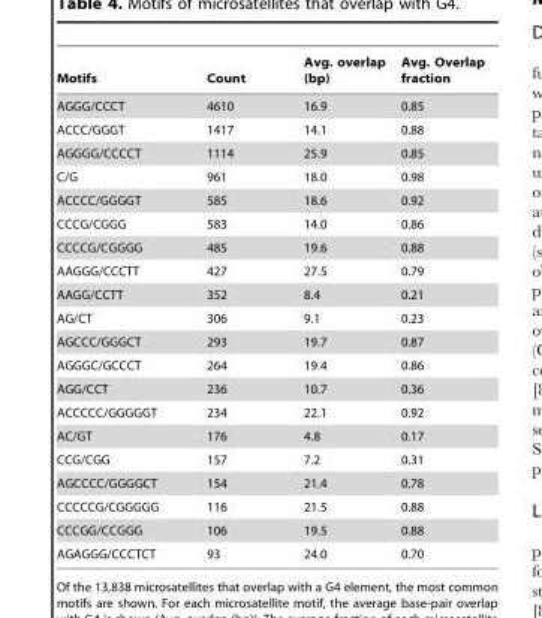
<table><thead><tr><td>Motifs</td><td>Count</td><td>Avg. overlap (bp)</td><td>Avg. Overlap fraction</td></tr></thead><tbody><tr><td>AGGG/CCCT</td><td>4610</td><td>16.9</td><td>0.85</td></tr><tr><td>ACCC/GGGT</td><td>1417</td><td>14.1</td><td>0.88</td></tr><tr><td>AGGGG/CCCCT</td><td>1114</td><td>25.9</td><td>0.85</td></tr><tr><td>C/G</td><td>961</td><td>18.0</td><td>0.98</td></tr><tr><td>ACCCC/GGGGT</td><td>585</td><td>18.6</td><td>0.92</td></tr><tr><td>CCCG/CGGG</td><td>583</td><td>14.0</td><td>0.86</td></tr><tr><td>CCCCG/CGGGG</td><td>485</td><td>19.6</td><td>0.88</td></tr><tr><td>AAGGG/CCCTT</td><td>427</td><td>27.5</td><td>0.79</td></tr><tr><td>AAGG/CCTT</td><td>352</td><td>8.4</td><td>0.21</td></tr><tr><td>AG/CT</td><td>306</td><td>9.1</td><td>0.23</td></tr><tr><td>AGCCC/GGGCT</td><td>293</td><td>19.7</td><td>0.87</td></tr><tr><td>AGGGC/GCCCT</td><td>264</td><td>19.4</td><td>0.86</td></tr><tr><td>AGG/CCT</td><td>236</td><td>10.7</td><td>0.36</td></tr><tr><td>ACCCCC/GGGGGT</td><td>234</td><td>22.1</td><td>0.92</td></tr><tr><td>AC/GT</td><td>176</td><td>4.8</td><td>0.17</td></tr><tr><td>CCG/CGG</td><td>157</td><td>7.2</td><td>0.31</td></tr><tr><td>AGCCCC/GGGGCT</td><td>154</td><td>21.4</td><td>0.78</td></tr><tr><td>CCCCCG/CGGGGG</td><td>116</td><td>21.5</td><td>0.88</td></tr><tr><td>CCCGG/CCGGG</td><td>106</td><td>19.5</td><td>0.88</td></tr><tr><td>AGAGGG/CCCTCT</td><td>93</td><td>24.0</td><td>0.70</td></tr></tbody></table>